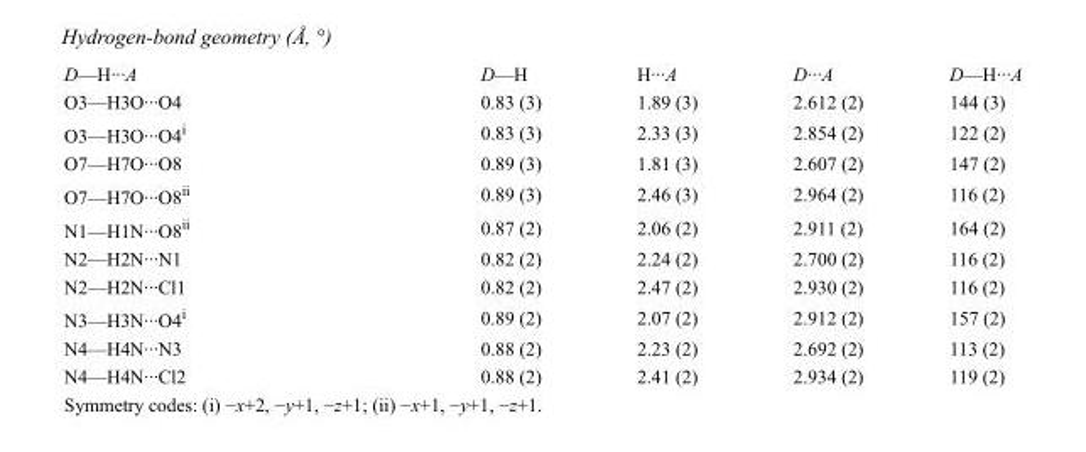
<table><tbody><tr><td>D—H···A</td><td>D—H</td><td>H···A</td><td>D···A</td><td>D—H···A</td></tr><tr><td>O3—H3O···O4</td><td>0.83 (3)</td><td>1.89 (3)</td><td>2.612 (2)</td><td>144 (3)</td></tr><tr><td>O3—H3O···O4<sup>i</sup></td><td>0.83 (3)</td><td>2.33 (3)</td><td>2.854 (2)</td><td>122 (2)</td></tr><tr><td>O7—H7O···O8</td><td>0.89 (3)</td><td>1.81 (3)</td><td>2.607 (2)</td><td>147 (2)</td></tr><tr><td>O7—H7O···O8<sup>ii</sup></td><td>0.89 (3)</td><td>2.46 (3)</td><td>2.964 (2)</td><td>116 (2)</td></tr><tr><td>N1—H1N···O8<sup>ii</sup></td><td>0.87 (2)</td><td>2.06 (2)</td><td>2.911 (2)</td><td>164 (2)</td></tr><tr><td>N2—H2N···N1</td><td>0.82 (2)</td><td>2.24 (2)</td><td>2.700 (2)</td><td>116 (2)</td></tr><tr><td>N2—H2N···Cl1</td><td>0.82 (2)</td><td>2.47 (2)</td><td>2.930 (2)</td><td>116 (2)</td></tr><tr><td>N3—H3N···O4<sup>i</sup></td><td>0.89 (2)</td><td>2.07 (2)</td><td>2.912 (2)</td><td>157 (2)</td></tr><tr><td>N4—H4N···N3</td><td>0.88 (2)</td><td>2.23 (2)</td><td>2.692 (2)</td><td>113 (2)</td></tr><tr><td>N4—H4N···Cl2</td><td>0.88 (2)</td><td>2.41 (2)</td><td>2.934 (2)</td><td>119 (2)</td></tr></tbody></table>